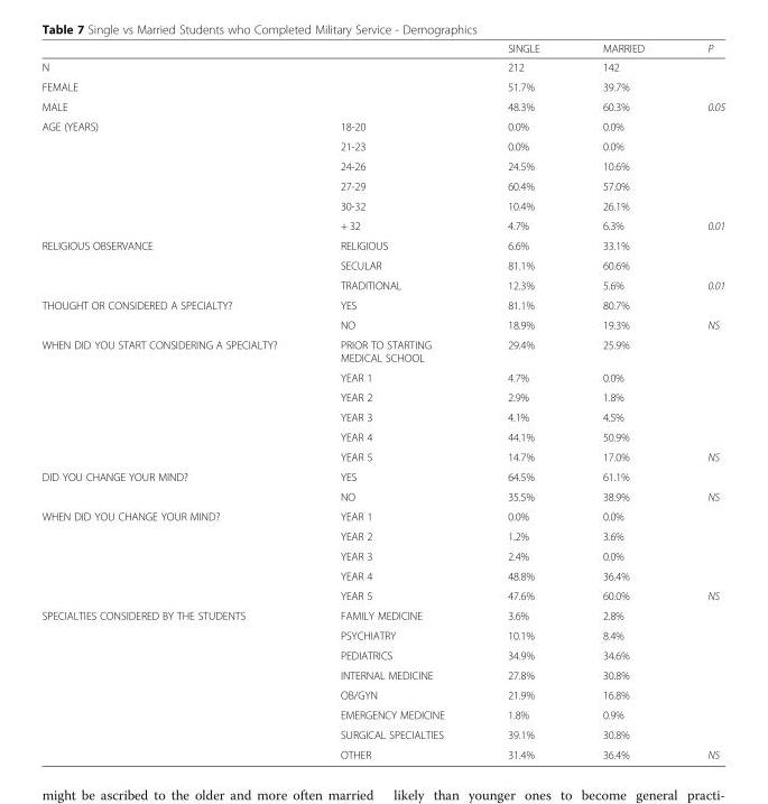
<table><thead><tr><td></td><td></td><td>SINGLE</td><td>MARRIED</td><td>P</td></tr></thead><tbody><tr><td>N</td><td></td><td>212</td><td>142</td><td></td></tr><tr><td>FEMALE</td><td></td><td>51.7%</td><td>39.7%</td><td></td></tr><tr><td>MALE</td><td></td><td>48.3%</td><td>60.3%</td><td>0.05</td></tr><tr><td rowspan="6">AGE (YEARS)</td><td>18-20</td><td>0.0%</td><td>0.0%</td><td></td></tr><tr><td>21-23</td><td>0.0%</td><td>0.0%</td><td></td></tr><tr><td>24-26</td><td>24.5%</td><td>10.6%</td><td></td></tr><tr><td>27-29</td><td>60.4%</td><td>57.0%</td><td></td></tr><tr><td>30-32</td><td>10.4%</td><td>26.1%</td><td></td></tr><tr><td>+ 32</td><td>4.7%</td><td>6.3%</td><td>0.01</td></tr><tr><td rowspan="3">RELIGIOUS OBSERVANCE</td><td>RELIGIOUS</td><td>6.6%</td><td>33.1%</td><td></td></tr><tr><td>SECULAR</td><td>81.1%</td><td>60.6%</td><td></td></tr><tr><td>TRADITIONAL</td><td>12.3%</td><td>5.6%</td><td>0.01</td></tr><tr><td rowspan="2">THOUGHT OR CONSIDERED A SPECIALTY?</td><td>YES</td><td>81.1%</td><td>80.7%</td><td></td></tr><tr><td>NO</td><td>18.9%</td><td>19.3%</td><td>NS</td></tr><tr><td rowspan="6">WHEN DID YOU START CONSIDERING A SPECIALTY?</td><td>PRIOR TO STARTING MEDICAL SCHOOL</td><td>29.4%</td><td>25.9%</td><td></td></tr><tr><td>YEAR 1</td><td>4.7%</td><td>0.0%</td><td></td></tr><tr><td>YEAR 2</td><td>2.9%</td><td>1.8%</td><td></td></tr><tr><td>YEAR 3</td><td>4.1%</td><td>4.5%</td><td></td></tr><tr><td>YEAR 4</td><td>44.1%</td><td>50.9%</td><td></td></tr><tr><td>YEAR 5</td><td>14.7%</td><td>17.0%</td><td>NS</td></tr><tr><td rowspan="2">DID YOU CHANGE YOUR MIND?</td><td>YES</td><td>64.5%</td><td>61.1%</td><td></td></tr><tr><td>NO</td><td>35.5%</td><td>38.9%</td><td>NS</td></tr><tr><td rowspan="5">WHEN DID YOU CHANGE YOUR MIND?</td><td>YEAR 1</td><td>0.0%</td><td>0.0%</td><td></td></tr><tr><td>YEAR 2</td><td>1.2%</td><td>3.6%</td><td></td></tr><tr><td>YEAR 3</td><td>2.4%</td><td>0.0%</td><td></td></tr><tr><td>YEAR 4</td><td>48.8%</td><td>36.4%</td><td></td></tr><tr><td>YEAR 5</td><td>47.6%</td><td>60.0%</td><td>NS</td></tr><tr><td rowspan="8">SPECIALTIES CONSIDERED BY THE STUDENTS</td><td>FAMILY MEDICINE</td><td>3.6%</td><td>2.8%</td><td></td></tr><tr><td>PSYCHIATRY</td><td>10.1%</td><td>8.4%</td><td></td></tr><tr><td>PEDIATRICS</td><td>34.9%</td><td>34.6%</td><td></td></tr><tr><td>INTERNAL MEDICINE</td><td>27.8%</td><td>30.8%</td><td></td></tr><tr><td>OB/GYN</td><td>21.9%</td><td>16.8%</td><td></td></tr><tr><td>EMERGENCY MEDICINE</td><td>1.8%</td><td>0.9%</td><td></td></tr><tr><td>SURGICAL SPECIALTIES</td><td>39.1%</td><td>30.8%</td><td></td></tr><tr><td>OTHER</td><td>31.4%</td><td>36.4%</td><td>NS</td></tr></tbody></table>